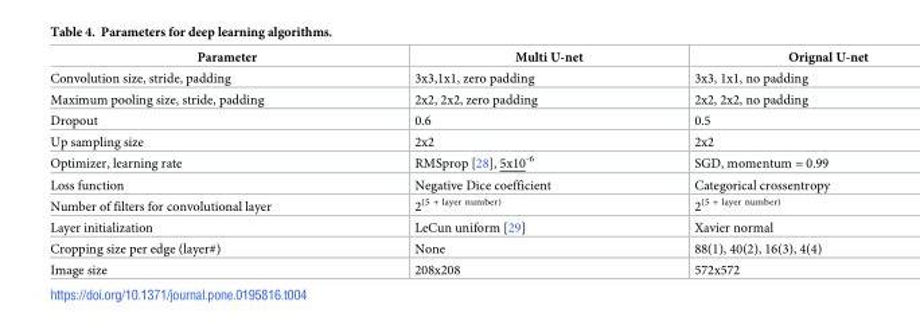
<table><thead><tr><td>Parameter</td><td>Multi U-net</td><td>Orignal U-net</td></tr></thead><tbody><tr><td>Convolution size, stride, padding</td><td>3x3,1x1, zero padding</td><td>3x3, 1x1, no padding</td></tr><tr><td>Maximum pooling size, stride, padding</td><td>2x2, 2x2, zero padding</td><td>2x2, 2x2, no padding</td></tr><tr><td>Dropout</td><td>0.6</td><td>0.5</td></tr><tr><td>Up sampling size</td><td>2x2</td><td>2x2</td></tr><tr><td>Optimizer, learning rate</td><td>RMSprop [28], 5x10<sup>-6</sup></td><td>SGD, momentum = 0.99</td></tr><tr><td>Loss function</td><td>Negative Dice coefficient</td><td>Categorical crossentropy</td></tr><tr><td>Number of filters for convolutional layer</td><td>2<sup>(5 + layer number)</sup></td><td>2<sup>(5 + layer number)</sup></td></tr><tr><td>Layer initialization</td><td>LeCun uniform [29]</td><td>Xavier normal</td></tr><tr><td>Cropping size per edge (layer#)</td><td>None</td><td>88(1), 40(2), 16(3), 4(4)</td></tr><tr><td>Image size</td><td>208x208</td><td>572x572</td></tr></tbody></table>